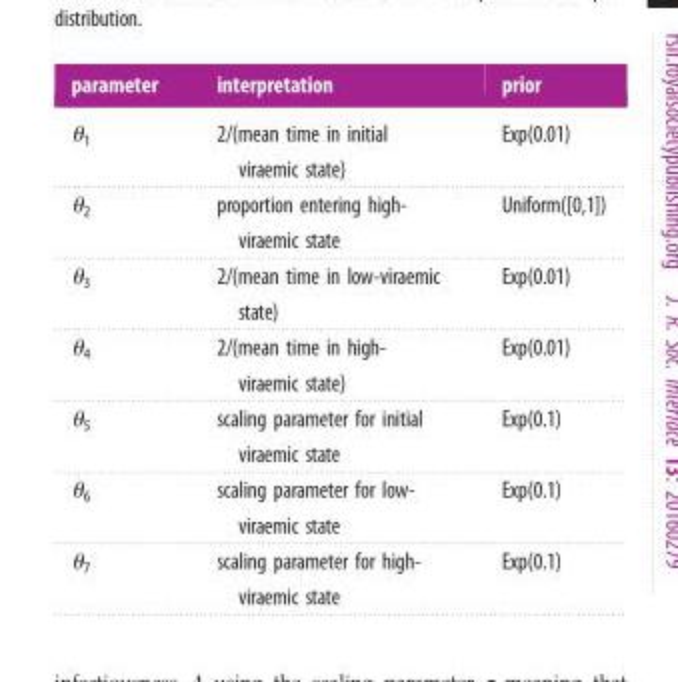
<table><thead><tr><td>parameter</td><td>interpretation</td><td>prior</td></tr></thead><tbody><tr><td>θ<sub>1</sub></td><td>2/(mean time in initial viraemic state)</td><td>Exp(0.01)</td></tr><tr><td>θ<sub>2</sub></td><td>proportion entering high- viraemic state</td><td>Uniform([0,1])</td></tr><tr><td>θ<sub>3</sub></td><td>2/(mean time in low-viraemic state)</td><td>Exp(0.01)</td></tr><tr><td>θ<sub>4</sub></td><td>2/(mean time in high- viraemic state)</td><td>Exp(0.01)</td></tr><tr><td>θ<sub>5</sub></td><td>scaling parameter for initial viraemic state</td><td>Exp(0.1)</td></tr><tr><td>θ<sub>6</sub></td><td>scaling parameter for low- viraemic state</td><td>Exp(0.1)</td></tr><tr><td>θ<sub>7</sub></td><td>scaling parameter for high- viraemic state</td><td>Exp(0.1)</td></tr></tbody></table>